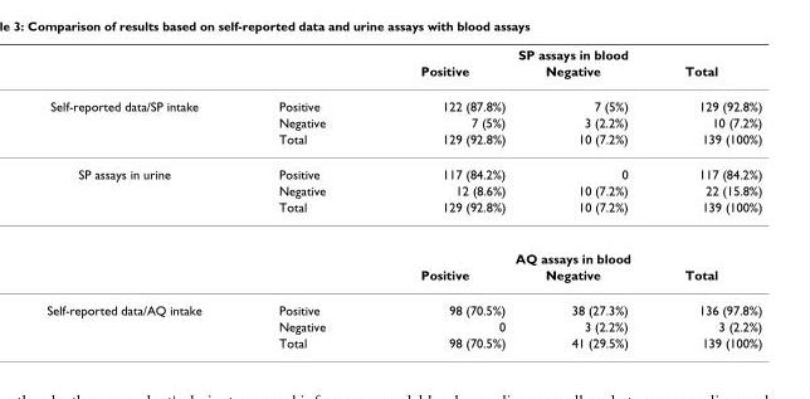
<table><thead><tr><td rowspan="2"></td><td rowspan="2"></td><td colspan="3">SP assays in blood</td></tr><tr><td>Positive</td><td>Negative</td><td>Total</td></tr></thead><tbody><tr><td rowspan="3">Self-reported data/SP intake</td><td>Positive</td><td>122 (87.8%)</td><td>7 (5%)</td><td>129 (92.8%)</td></tr><tr><td>Negative</td><td>7 (5%)</td><td>3 (2.2%)</td><td>10 (7.2%)</td></tr><tr><td>Total</td><td>129 (92.8%)</td><td>10 (7.2%)</td><td>139 (100%)</td></tr><tr><td rowspan="5">SP assays in urine</td><td>Positive</td><td>117 (84.2%)</td><td>0</td><td>117 (84.2%)</td></tr><tr><td>Negative</td><td>12 (8.6%)</td><td>10 (7.2%)</td><td>22 (15.8%)</td></tr><tr><td>Total</td><td>129 (92.8%)</td><td>10 (7.2%)</td><td>139 (100%)</td></tr><tr><td></td><td colspan="3">AQ assays in blood</td></tr><tr><td></td><td>Positive</td><td>Negative</td><td>Total</td></tr><tr><td rowspan="3">Self-reported data/AQ intake</td><td>Positive</td><td>98 (70.5%)</td><td>38 (27.3%)</td><td>136 (97.8%)</td></tr><tr><td>Negative</td><td>0</td><td>3 (2.2%)</td><td>3 (2.2%)</td></tr><tr><td>Total</td><td>98 (70.5%)</td><td>41 (29.5%)</td><td>139 (100%)</td></tr></tbody></table>